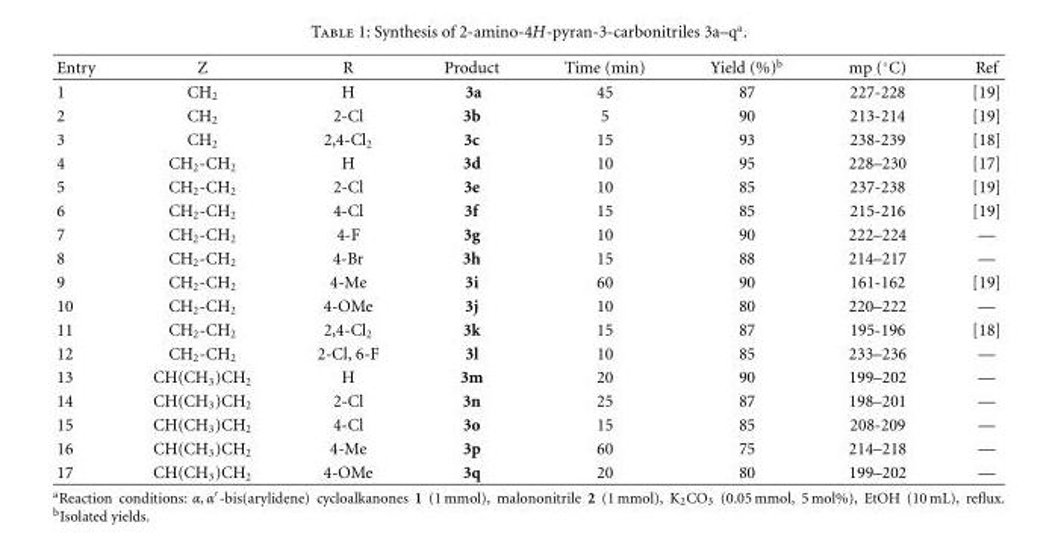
<table><thead><tr><td>Entry</td><td>Z</td><td>R</td><td>Product</td><td>Time (min)</td><td>Yield (%)<sup>b</sup></td><td>mp (◦C)</td><td>Ref</td></tr></thead><tbody><tr><td>1</td><td>CH<sub>2</sub></td><td>H</td><td>3a</td><td>45</td><td>87</td><td>227-228</td><td>[19]</td></tr><tr><td>2</td><td>CH<sub>2</sub></td><td>2-Cl</td><td>3b</td><td>5</td><td>90</td><td>213-214</td><td>[19]</td></tr><tr><td>3</td><td>CH<sub>2</sub></td><td>2,4-Cl<sub>2</sub></td><td>3c</td><td>15</td><td>93</td><td>238-239</td><td>[18]</td></tr><tr><td>4</td><td>CH<sub>2</sub>-CH<sub>2</sub></td><td>H</td><td>3d</td><td>10</td><td>95</td><td>228–230</td><td>[17]</td></tr><tr><td>5</td><td>CH<sub>2</sub>-CH<sub>2</sub></td><td>2-Cl</td><td>3e</td><td>10</td><td>85</td><td>237-238</td><td>[19]</td></tr><tr><td>6</td><td>CH<sub>2</sub>-CH<sub>2</sub></td><td>4-Cl</td><td>3f</td><td>15</td><td>85</td><td>215-216</td><td>[19]</td></tr><tr><td>7</td><td>CH<sub>2</sub>-CH<sub>2</sub></td><td>4-F</td><td>3g</td><td>10</td><td>90</td><td>222–224</td><td>—</td></tr><tr><td>8</td><td>CH<sub>2</sub>-CH<sub>2</sub></td><td>4-Br</td><td>3h</td><td>15</td><td>88</td><td>214–217</td><td>—</td></tr><tr><td>9</td><td>CH<sub>2</sub>-CH<sub>2</sub></td><td>4-Me</td><td>3i</td><td>60</td><td>90</td><td>161-162</td><td>[19]</td></tr><tr><td>10</td><td>CH<sub>2</sub>-CH<sub>2</sub></td><td>4-OMe</td><td>3j</td><td>10</td><td>80</td><td>220–222</td><td>—</td></tr><tr><td>11</td><td>CH<sub>2</sub>-CH<sub>2</sub></td><td>2,4-Cl<sub>2</sub></td><td>3k</td><td>15</td><td>87</td><td>195-196</td><td>[18]</td></tr><tr><td>12</td><td>CH<sub>2</sub>-CH<sub>2</sub></td><td>2-Cl, 6-F</td><td>3l</td><td>10</td><td>85</td><td>233–236</td><td>—</td></tr><tr><td>13</td><td>CH(CH<sub>3</sub>)CH<sub>2</sub></td><td>H</td><td>3m</td><td>20</td><td>90</td><td>199–202</td><td>—</td></tr><tr><td>14</td><td>CH(CH<sub>3</sub>)CH<sub>2</sub></td><td>2-Cl</td><td>3n</td><td>25</td><td>87</td><td>198–201</td><td>—</td></tr><tr><td>15</td><td>CH(CH<sub>3</sub>)CH<sub>2</sub></td><td>4-Cl</td><td>3o</td><td>15</td><td>85</td><td>208-209</td><td>—</td></tr><tr><td>16</td><td>CH(CH<sub>3</sub>)CH<sub>2</sub></td><td>4-Me</td><td>3p</td><td>60</td><td>75</td><td>214–218</td><td>—</td></tr><tr><td>17</td><td>CH(CH<sub>3</sub>)CH<sub>2</sub></td><td>4-OMe</td><td>3q</td><td>20</td><td>80</td><td>199–202</td><td>—</td></tr></tbody></table>